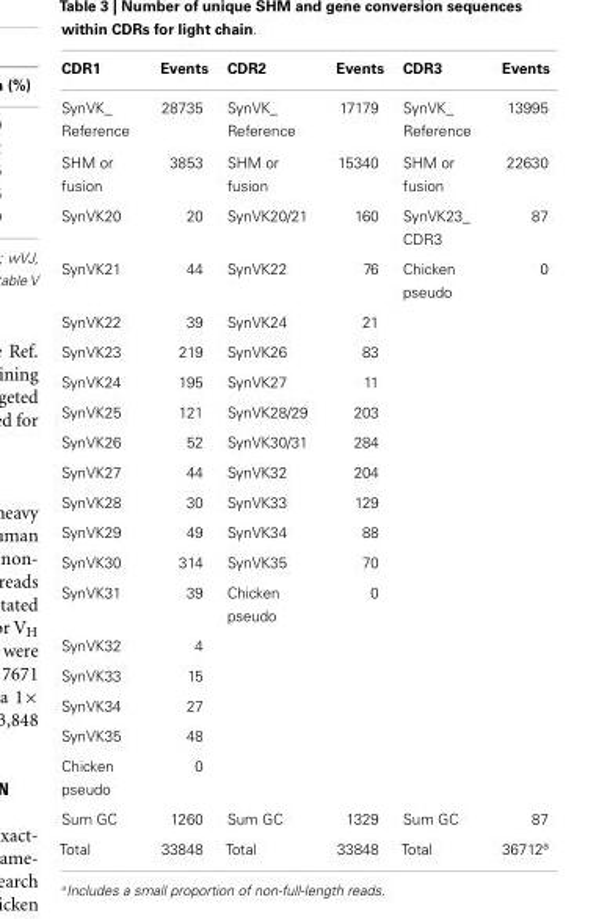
<table><thead><tr><td>CDR1</td><td>Events</td><td>CDR2</td><td>Events</td><td>CDR3</td><td>Events</td></tr></thead><tbody><tr><td>SynVK_ Reference</td><td>28735</td><td>SynVK_ Reference</td><td>17179</td><td>SynVK_ Reference</td><td>13995</td></tr><tr><td>SHM or fusion</td><td>3853</td><td>SHM or fusion</td><td>15340</td><td>SHM or fusion</td><td>22630</td></tr><tr><td>SynVK20</td><td>20</td><td>SynVK20/21</td><td>160</td><td>SynVK23_ CDR3</td><td>87</td></tr><tr><td>SynVK21</td><td>44</td><td>SynVK22</td><td>76</td><td>Chicken pseudo</td><td>0</td></tr><tr><td>SynVK22</td><td>39</td><td>SynVK24</td><td>21</td><td></td><td></td></tr><tr><td>SynVK23</td><td>219</td><td>SynVK26</td><td>83</td><td></td><td></td></tr><tr><td>SynVK24</td><td>195</td><td>SynVK27</td><td>11</td><td></td><td></td></tr><tr><td>SynVK25</td><td>121</td><td>SynVK28/29</td><td>203</td><td></td><td></td></tr><tr><td>SynVK26</td><td>52</td><td>SynVK30/31</td><td>284</td><td></td><td></td></tr><tr><td>SynVK27</td><td>44</td><td>SynVK32</td><td>204</td><td></td><td></td></tr><tr><td>SynVK28</td><td>30</td><td>SynVK33</td><td>129</td><td></td><td></td></tr><tr><td>SynVK29</td><td>49</td><td>SynVK34</td><td>88</td><td></td><td></td></tr><tr><td>SynVK30</td><td>314</td><td>SynVK35</td><td>70</td><td></td><td></td></tr><tr><td>SynVK31</td><td>39</td><td>Chicken pseudo</td><td>0</td><td></td><td></td></tr><tr><td>SynVK32</td><td>4</td><td></td><td></td><td></td><td></td></tr><tr><td>SynVK33</td><td>15</td><td></td><td></td><td></td><td></td></tr><tr><td>SynVK34</td><td>27</td><td></td><td></td><td></td><td></td></tr><tr><td>SynVK35</td><td>48</td><td></td><td></td><td></td><td></td></tr><tr><td>Chicken pseudo</td><td>0</td><td></td><td></td><td></td><td></td></tr><tr><td>Sum GC</td><td>1260</td><td>Sum GC</td><td>1329</td><td>Sum GC</td><td>87</td></tr><tr><td>Total</td><td>33848</td><td>Total</td><td>33848</td><td>Total</td><td>36712<sup>a</sup></td></tr></tbody></table>